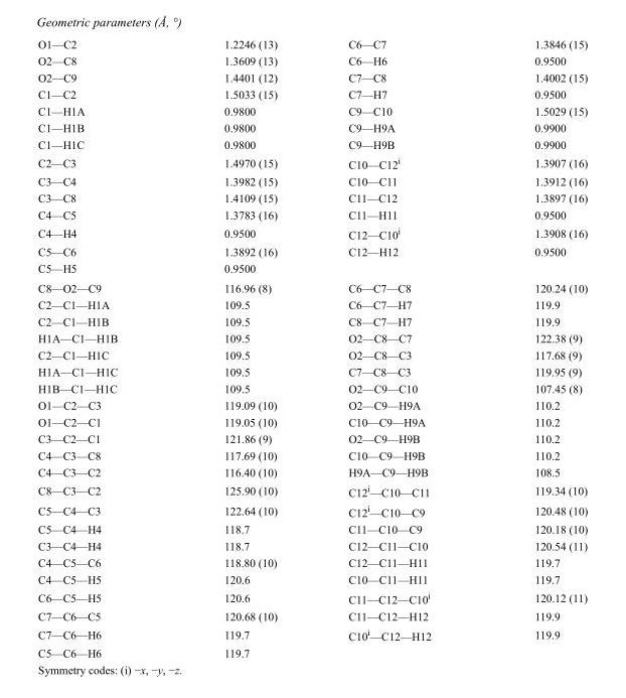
<table><tbody><tr><td>O1—C2</td><td>1.2246 (13)</td><td>C6—C7</td><td>1.3846 (15)</td></tr><tr><td>O2—C8</td><td>1.3609 (13)</td><td>C6—H6</td><td>0.9500</td></tr><tr><td>O2—C9</td><td>1.4401 (12)</td><td>C7—C8</td><td>1.4002 (15)</td></tr><tr><td>C1—C2</td><td>1.5033 (15)</td><td>C7—H7</td><td>0.9500</td></tr><tr><td>C1—H1A</td><td>0.9800</td><td>C9—C10</td><td>1.5029 (15)</td></tr><tr><td>C1—H1B</td><td>0.9800</td><td>C9—H9A</td><td>0.9900</td></tr><tr><td>C1—H1C</td><td>0.9800</td><td>C9—H9B</td><td>0.9900</td></tr><tr><td>C2—C3</td><td>1.4970 (15)</td><td>C10—C12<sup>i</sup></td><td>1.3907 (16)</td></tr><tr><td>C3—C4</td><td>1.3982 (15)</td><td>C10—C11</td><td>1.3912 (16)</td></tr><tr><td>C3—C8</td><td>1.4109 (15)</td><td>C11—C12</td><td>1.3897 (16)</td></tr><tr><td>C4—C5</td><td>1.3783 (16)</td><td>C11—H11</td><td>0.9500</td></tr><tr><td>C4—H4</td><td>0.9500</td><td>C12—C10<sup>i</sup></td><td>1.3908 (16)</td></tr><tr><td>C5—C6</td><td>1.3892 (16)</td><td>C12—H12</td><td>0.9500</td></tr><tr><td>C5—H5</td><td>0.9500</td><td></td><td></td></tr><tr><td>C8—O2—C9</td><td>116.96 (8)</td><td>C6—C7—C8</td><td>120.24 (10)</td></tr><tr><td>C2—C1—H1A</td><td>109.5</td><td>C6—C7—H7</td><td>119.9</td></tr><tr><td>C2—C1—H1B</td><td>109.5</td><td>C8—C7—H7</td><td>119.9</td></tr><tr><td>H1A—C1—H1B</td><td>109.5</td><td>O2—C8—C7</td><td>122.38 (9)</td></tr><tr><td>C2—C1—H1C</td><td>109.5</td><td>O2—C8—C3</td><td>117.68 (9)</td></tr><tr><td>H1A—C1—H1C</td><td>109.5</td><td>C7—C8—C3</td><td>119.95 (9)</td></tr><tr><td>H1B—C1—H1C</td><td>109.5</td><td>O2—C9—C10</td><td>107.45 (8)</td></tr><tr><td>O1—C2—C3</td><td>119.09 (10)</td><td>O2—C9—H9A</td><td>110.2</td></tr><tr><td>O1—C2—C1</td><td>119.05 (10)</td><td>C10—C9—H9A</td><td>110.2</td></tr><tr><td>C3—C2—C1</td><td>121.86 (9)</td><td>O2—C9—H9B</td><td>110.2</td></tr><tr><td>C4—C3—C8</td><td>117.69 (10)</td><td>C10—C9—H9B</td><td>110.2</td></tr><tr><td>C4—C3—C2</td><td>116.40 (10)</td><td>H9A—C9—H9B</td><td>108.5</td></tr><tr><td>C8—C3—C2</td><td>125.90 (10)</td><td>C12<sup>i</sup>—C10—C11</td><td>119.34 (10)</td></tr><tr><td>C5—C4—C3</td><td>122.64 (10)</td><td>C12<sup>i</sup>—C10—C9</td><td>120.48 (10)</td></tr><tr><td>C5—C4—H4</td><td>118.7</td><td>C11—C10—C9</td><td>120.18 (10)</td></tr><tr><td>C3—C4—H4</td><td>118.7</td><td>C12—C11—C10</td><td>120.54 (11)</td></tr><tr><td>C4—C5—C6</td><td>118.80 (10)</td><td>C12—C11—H11</td><td>119.7</td></tr><tr><td>C4—C5—H5</td><td>120.6</td><td>C10—C11—H11</td><td>119.7</td></tr><tr><td>C6—C5—H5</td><td>120.6</td><td>C11—C12—C10<sup>i</sup></td><td>120.12 (11)</td></tr><tr><td>C7—C6—C5</td><td>120.68 (10)</td><td>C11—C12—H12</td><td>119.9</td></tr><tr><td>C7—C6—H6</td><td>119.7</td><td>C10<sup>i</sup>—C12—H12</td><td>119.9</td></tr><tr><td>C5—C6—H6</td><td>119.7</td><td></td><td></td></tr></tbody></table>